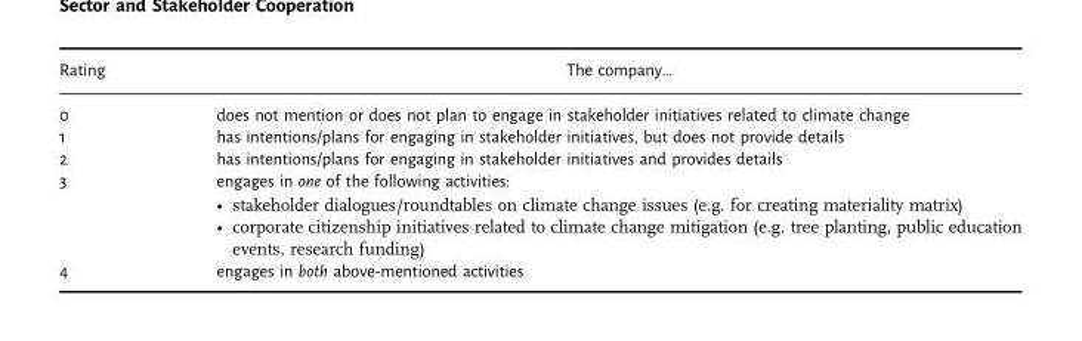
<table><thead><tr><td>Rating</td><td>The company…</td></tr></thead><tbody><tr><td>0</td><td>does not mention or does not plan to engage in stakeholder initiatives related to climate change</td></tr><tr><td>1</td><td>has intentions/plans for engaging in stakeholder initiatives, but does not provide details</td></tr><tr><td>2</td><td>has intentions/plans for engaging in stakeholder initiatives and provides details</td></tr><tr><td>3</td><td>engages in one of the following activities: • stakeholder dialogues/roundtables on climate change issues (e.g. for creating materiality matrix) • corporate citizenship initiatives related to climate change mitigation (e.g. tree planting, public education events, research funding)</td></tr><tr><td>4</td><td>engages in both above-mentioned activities</td></tr></tbody></table>